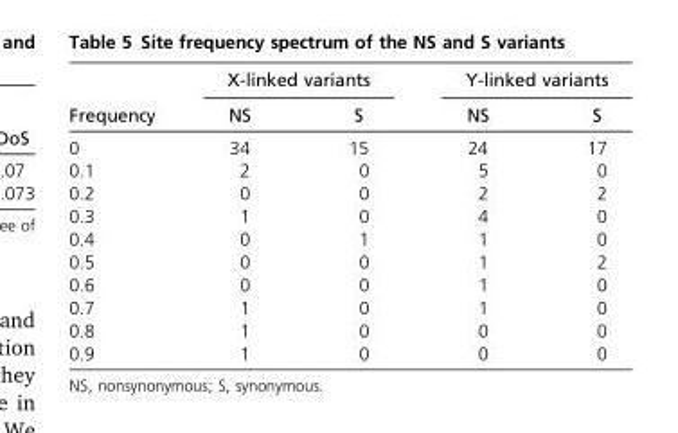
<table><thead><tr><td rowspan="2">Frequency</td><td colspan="2">X-linked variants</td><td colspan="2">Y-linked variants</td></tr><tr><td>NS</td><td>S</td><td>NS</td><td>S</td></tr></thead><tbody><tr><td>0</td><td>34</td><td>15</td><td>24</td><td>17</td></tr><tr><td>0.1</td><td>2</td><td>0</td><td>5</td><td>0</td></tr><tr><td>0.2</td><td>0</td><td>0</td><td>2</td><td>2</td></tr><tr><td>0.3</td><td>1</td><td>0</td><td>4</td><td>0</td></tr><tr><td>0.4</td><td>0</td><td>1</td><td>1</td><td>0</td></tr><tr><td>0.5</td><td>0</td><td>0</td><td>1</td><td>2</td></tr><tr><td>0.6</td><td>0</td><td>0</td><td>1</td><td>0</td></tr><tr><td>0.7</td><td>1</td><td>0</td><td>1</td><td>0</td></tr><tr><td>0.8</td><td>1</td><td>0</td><td>0</td><td>0</td></tr><tr><td>0.9</td><td>1</td><td>0</td><td>0</td><td>0</td></tr></tbody></table>